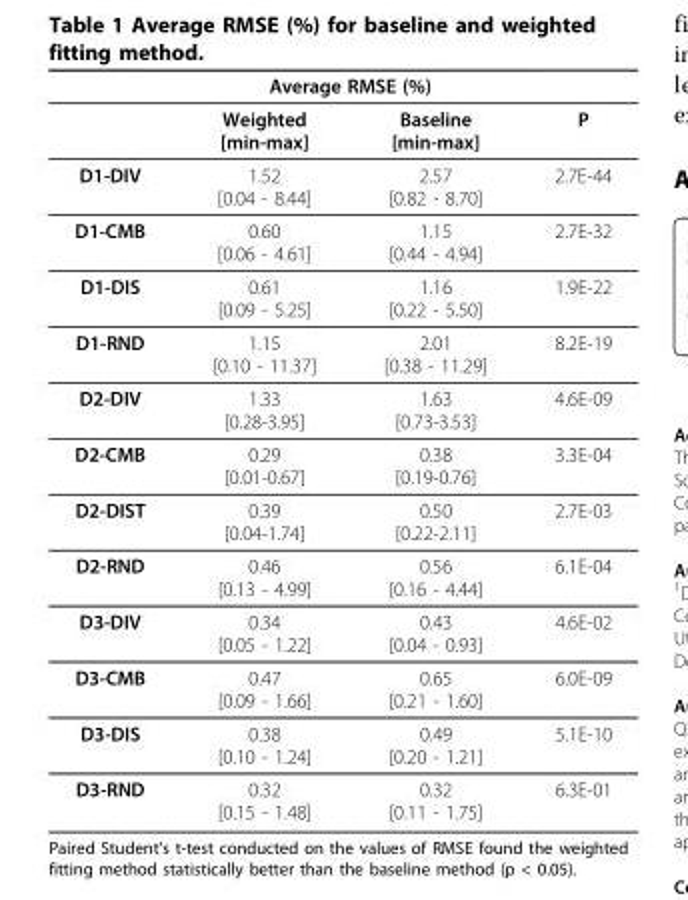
<table><thead><tr><td rowspan="2"></td><td colspan="2">Average RMSE (%)</td><td rowspan="2">P</td></tr><tr><td>Weighted [min-max]</td><td>Baseline [min-max]</td></tr></thead><tbody><tr><td>D1-DIV</td><td>1.52 [0.04 - 8.44]</td><td>2.57 [0.82 - 8.70]</td><td>2.7E-44</td></tr><tr><td>D1-CMB</td><td>0.60 [0.06 - 4.61]</td><td>1.15 [0.44 - 4.94]</td><td>2.7E-32</td></tr><tr><td>D1-DIS</td><td>0.61 [0.09 - 5.25]</td><td>1.16 [0.22 - 5.50]</td><td>1.9E-22</td></tr><tr><td>D1-RND</td><td>1.15 [0.10 - 11.37]</td><td>2.01 [0.38 - 11.29]</td><td>8.2E-19</td></tr><tr><td>D2-DIV</td><td>1.33 [0.28-3.95]</td><td>1.63 [0.73-3.53]</td><td>4.6E-09</td></tr><tr><td>D2-CMB</td><td>0.29 [0.01-0.67]</td><td>0.38 [0.19-0.76]</td><td>3.3E-04</td></tr><tr><td>D2-DIST</td><td>0.39 [0.04-1.74]</td><td>0.50 [0.22-2.11]</td><td>2.7E-03</td></tr><tr><td>D2-RND</td><td>0.46 [0.13 - 4.99]</td><td>0.56 [0.16 - 4.44]</td><td>6.1E-04</td></tr><tr><td>D3-DIV</td><td>0.34 [0.05 - 1.22]</td><td>0.43 [0.04 - 0.93]</td><td>4.6E-02</td></tr><tr><td>D3-CMB</td><td>0.47 [0.09 - 1.66]</td><td>0.65 [0.21 - 1.60]</td><td>6.0E-09</td></tr><tr><td>D3-DIS</td><td>0.38 [0.10 - 1.24]</td><td>0.49 [0.20 - 1.21]</td><td>5.1E-10</td></tr><tr><td>D3-RND</td><td>0.32 [0.15 - 1.48]</td><td>0.32 [0.11 - 1.75]</td><td>6.3E-01</td></tr></tbody></table>